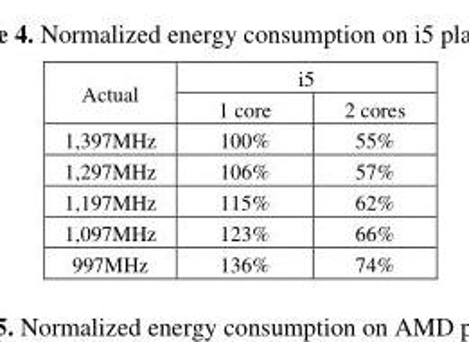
<table><thead><tr><td rowspan="2">Actual</td><td colspan="2">i5</td></tr><tr><td>1 core</td><td>2 cores</td></tr></thead><tbody><tr><td>1,397MHz</td><td>100%</td><td>55%</td></tr><tr><td>1,297MHz</td><td>106%</td><td>57%</td></tr><tr><td>1,197MHz</td><td>115%</td><td>62%</td></tr><tr><td>1,097MHz</td><td>123%</td><td>66%</td></tr><tr><td>997MHz</td><td>136%</td><td>74%</td></tr></tbody></table>